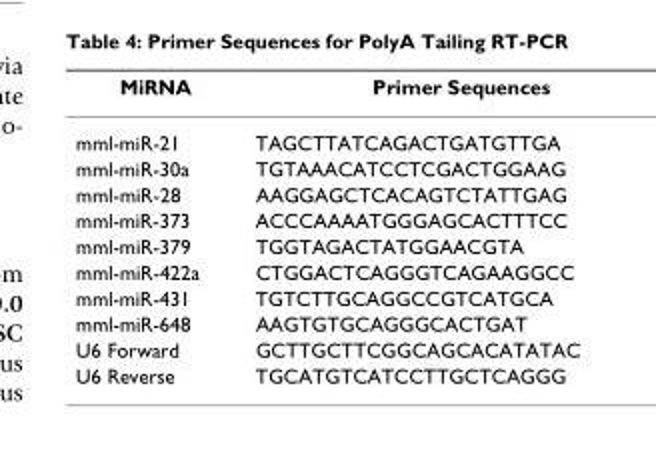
<table><thead><tr><td>MiRNA</td><td>Primer Sequences</td></tr></thead><tbody><tr><td>mml-miR-21</td><td>TAGCTTATCAGACTGATGTTGA</td></tr><tr><td>mml-miR-30a</td><td>TGTAAACATCCTCGACTGGAAG</td></tr><tr><td>mml-miR-28</td><td>AAGGAGCTCACAGTCTATTGAG</td></tr><tr><td>mml-miR-373</td><td>ACCCAAAATGGGAGCACTTTCC</td></tr><tr><td>mml-miR-379</td><td>TGGTAGACTATGGAACGTA</td></tr><tr><td>mml-miR-422a</td><td>CTGGACTCAGGGTCAGAAGGCC</td></tr><tr><td>mml-miR-431</td><td>TGTCTTGCAGGCCGTCATGCA</td></tr><tr><td>mml-miR-648</td><td>AAGTGTGCAGGGCACTGAT</td></tr><tr><td>U6 Forward</td><td>GCTTGCTTCGGCAGCACATATAC</td></tr><tr><td>U6 Reverse</td><td>TGCATGTCATCCTTGCTCAGGG</td></tr></tbody></table>